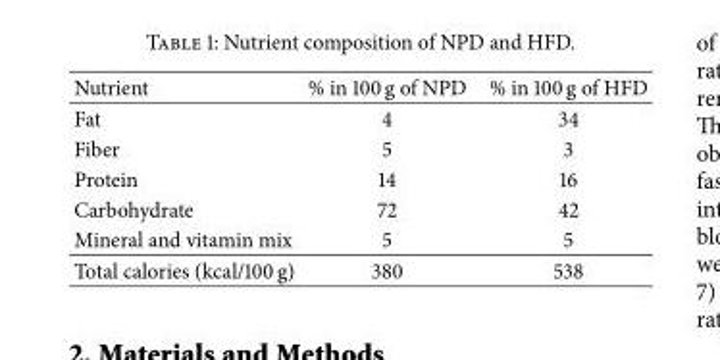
<table><thead><tr><td>Nutrient</td><td>% in 100 g of NPD</td><td>% in 100 g of HFD</td></tr></thead><tbody><tr><td>Fat</td><td>4</td><td>34</td></tr><tr><td>Fiber</td><td>5</td><td>3</td></tr><tr><td>Protein</td><td>14</td><td>16</td></tr><tr><td>Carbohydrate</td><td>72</td><td>42</td></tr><tr><td>Mineral and vitamin mix</td><td>5</td><td>5</td></tr><tr><td>Total calories (kcal/100 g)</td><td>380</td><td>538</td></tr></tbody></table>